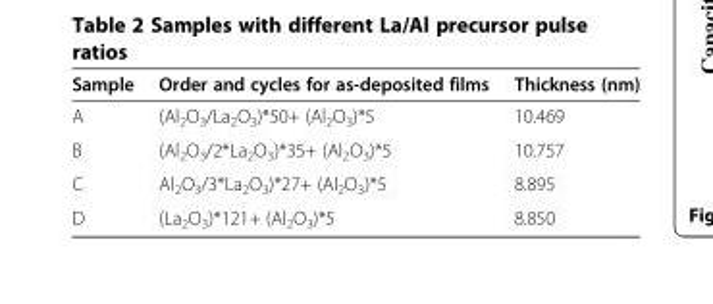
<table><thead><tr><td>Sample</td><td>Order and cycles for as-deposited films</td><td>Thickness (nm)</td></tr></thead><tbody><tr><td>A</td><td>(Al<sub>2</sub>O<sub>3</sub>/La<sub>2</sub>O<sub>3</sub>)*50+ (Al<sub>2</sub>O<sub>3</sub>)*5</td><td>10.469</td></tr><tr><td>B</td><td>(Al<sub>2</sub>O<sub>3</sub>/2*La<sub>2</sub>O<sub>3</sub>)*35+ (Al<sub>2</sub>O<sub>3</sub>)*5</td><td>10.757</td></tr><tr><td>C</td><td>Al<sub>2</sub>O<sub>3</sub>/3*La<sub>2</sub>O<sub>3</sub>)*27+ (Al<sub>2</sub>O<sub>3</sub>)*5</td><td>8.895</td></tr><tr><td>D</td><td>(La<sub>2</sub>O<sub>3</sub>)*121+ (Al<sub>2</sub>O<sub>3</sub>)*5</td><td>8.850</td></tr></tbody></table>